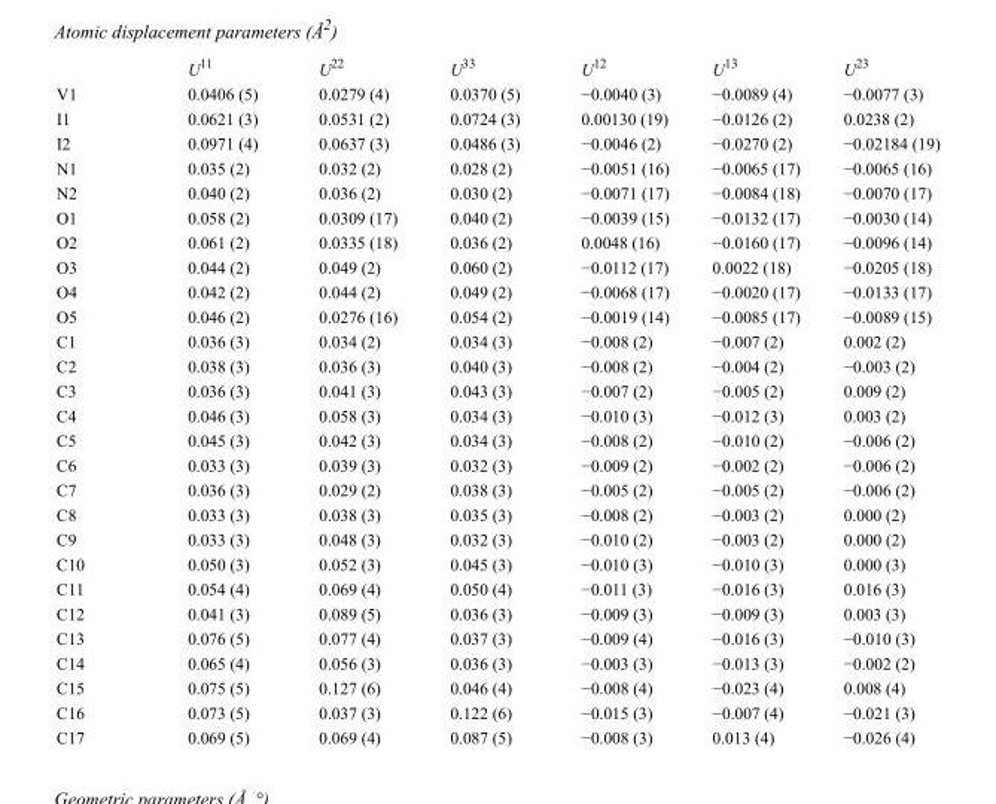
<table><thead><tr><td></td><td>U<sup>11</sup></td><td>U<sup>22</sup></td><td>U<sup>33</sup></td><td>U<sup>12</sup></td><td>U<sup>13</sup></td><td>U<sup>23</sup></td></tr></thead><tbody><tr><td>V1</td><td>0.0406 (5)</td><td>0.0279 (4)</td><td>0.0370 (5)</td><td>−0.0040 (3)</td><td>−0.0089 (4)</td><td>−0.0077 (3)</td></tr><tr><td>I1</td><td>0.0621 (3)</td><td>0.0531 (2)</td><td>0.0724 (3)</td><td>0.00130 (19)</td><td>−0.0126 (2)</td><td>0.0238 (2)</td></tr><tr><td>I2</td><td>0.0971 (4)</td><td>0.0637 (3)</td><td>0.0486 (3)</td><td>−0.0046 (2)</td><td>−0.0270 (2)</td><td>−0.02184 (19)</td></tr><tr><td>N1</td><td>0.035 (2)</td><td>0.032 (2)</td><td>0.028 (2)</td><td>−0.0051 (16)</td><td>−0.0065 (17)</td><td>−0.0065 (16)</td></tr><tr><td>N2</td><td>0.040 (2)</td><td>0.036 (2)</td><td>0.030 (2)</td><td>−0.0071 (17)</td><td>−0.0084 (18)</td><td>−0.0070 (17)</td></tr><tr><td>O1</td><td>0.058 (2)</td><td>0.0309 (17)</td><td>0.040 (2)</td><td>−0.0039 (15)</td><td>−0.0132 (17)</td><td>−0.0030 (14)</td></tr><tr><td>O2</td><td>0.061 (2)</td><td>0.0335 (18)</td><td>0.036 (2)</td><td>0.0048 (16)</td><td>−0.0160 (17)</td><td>−0.0096 (14)</td></tr><tr><td>O3</td><td>0.044 (2)</td><td>0.049 (2)</td><td>0.060 (2)</td><td>−0.0112 (17)</td><td>0.0022 (18)</td><td>−0.0205 (18)</td></tr><tr><td>O4</td><td>0.042 (2)</td><td>0.044 (2)</td><td>0.049 (2)</td><td>−0.0068 (17)</td><td>−0.0020 (17)</td><td>−0.0133 (17)</td></tr><tr><td>O5</td><td>0.046 (2)</td><td>0.0276 (16)</td><td>0.054 (2)</td><td>−0.0019 (14)</td><td>−0.0085 (17)</td><td>−0.0089 (15)</td></tr><tr><td>C1</td><td>0.036 (3)</td><td>0.034 (2)</td><td>0.034 (3)</td><td>−0.008 (2)</td><td>−0.007 (2)</td><td>0.002 (2)</td></tr><tr><td>C2</td><td>0.038 (3)</td><td>0.036 (3)</td><td>0.040 (3)</td><td>−0.008 (2)</td><td>−0.004 (2)</td><td>−0.003 (2)</td></tr><tr><td>C3</td><td>0.036 (3)</td><td>0.041 (3)</td><td>0.043 (3)</td><td>−0.007 (2)</td><td>−0.005 (2)</td><td>0.009 (2)</td></tr><tr><td>C4</td><td>0.046 (3)</td><td>0.058 (3)</td><td>0.034 (3)</td><td>−0.010 (3)</td><td>−0.012 (3)</td><td>0.003 (2)</td></tr><tr><td>C5</td><td>0.045 (3)</td><td>0.042 (3)</td><td>0.034 (3)</td><td>−0.008 (2)</td><td>−0.010 (2)</td><td>−0.006 (2)</td></tr><tr><td>C6</td><td>0.033 (3)</td><td>0.039 (3)</td><td>0.032 (3)</td><td>−0.009 (2)</td><td>−0.002 (2)</td><td>−0.006 (2)</td></tr><tr><td>C7</td><td>0.036 (3)</td><td>0.029 (2)</td><td>0.038 (3)</td><td>−0.005 (2)</td><td>−0.005 (2)</td><td>−0.006 (2)</td></tr><tr><td>C8</td><td>0.033 (3)</td><td>0.038 (3)</td><td>0.035 (3)</td><td>−0.008 (2)</td><td>−0.003 (2)</td><td>0.000 (2)</td></tr><tr><td>C9</td><td>0.033 (3)</td><td>0.048 (3)</td><td>0.032 (3)</td><td>−0.010 (2)</td><td>−0.003 (2)</td><td>0.000 (2)</td></tr><tr><td>C10</td><td>0.050 (3)</td><td>0.052 (3)</td><td>0.045 (3)</td><td>−0.010 (3)</td><td>−0.010 (3)</td><td>0.000 (3)</td></tr><tr><td>C11</td><td>0.054 (4)</td><td>0.069 (4)</td><td>0.050 (4)</td><td>−0.011 (3)</td><td>−0.016 (3)</td><td>0.016 (3)</td></tr><tr><td>C12</td><td>0.041 (3)</td><td>0.089 (5)</td><td>0.036 (3)</td><td>−0.009 (3)</td><td>−0.009 (3)</td><td>0.003 (3)</td></tr><tr><td>C13</td><td>0.076 (5)</td><td>0.077 (4)</td><td>0.037 (3)</td><td>−0.009 (4)</td><td>−0.016 (3)</td><td>−0.010 (3)</td></tr><tr><td>C14</td><td>0.065 (4)</td><td>0.056 (3)</td><td>0.036 (3)</td><td>−0.003 (3)</td><td>−0.013 (3)</td><td>−0.002 (2)</td></tr><tr><td>C15</td><td>0.075 (5)</td><td>0.127 (6)</td><td>0.046 (4)</td><td>−0.008 (4)</td><td>−0.023 (4)</td><td>0.008 (4)</td></tr><tr><td>C16</td><td>0.073 (5)</td><td>0.037 (3)</td><td>0.122 (6)</td><td>−0.015 (3)</td><td>−0.007 (4)</td><td>−0.021 (3)</td></tr><tr><td>C17</td><td>0.069 (5)</td><td>0.069 (4)</td><td>0.087 (5)</td><td>−0.008 (3)</td><td>0.013 (4)</td><td>−0.026 (4)</td></tr></tbody></table>